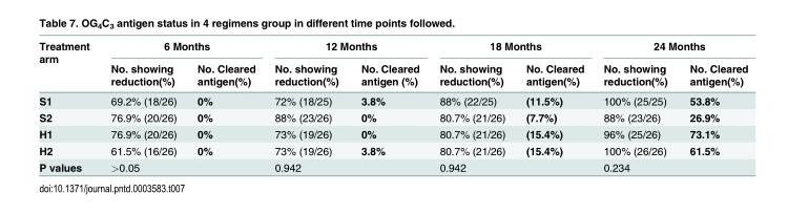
<table><thead><tr><td rowspan="2">Treatment arm</td><td colspan="2">6 Months</td><td colspan="2">12 Months</td><td colspan="2">18 Months</td><td colspan="2">24 Months</td></tr><tr><td>No. showing reduction(%)</td><td>No. Cleared antigen(%)</td><td>No. showing reduction(%)</td><td>No. Cleared antigen (%)</td><td>No. showing reduction(%)</td><td>No. Cleared antigen(%)</td><td>No. showing reduction(%)</td><td>No. Cleared antigen(%)</td></tr></thead><tbody><tr><td>S1</td><td>69.2% (18/26)</td><td>0%</td><td>72% (18/25)</td><td>3.8%</td><td>88% (22/25)</td><td>(11.5%)</td><td>100% (25/25)</td><td>53.8%</td></tr><tr><td>S2</td><td>76.9% (20/26)</td><td>0%</td><td>88% (23/26)</td><td>0%</td><td>80.7% (21/26)</td><td>(7.7%)</td><td>88% (23/26)</td><td>26.9%</td></tr><tr><td>H1</td><td>76.9% (20/26)</td><td>0%</td><td>73% (19/26)</td><td>0%</td><td>80.7% (21/26)</td><td>(15.4%)</td><td>96% (25/26)</td><td>73.1%</td></tr><tr><td>H2</td><td>61.5% (16/26)</td><td>0%</td><td>73% (19/26)</td><td>3.8%</td><td>80.7% (21/26)</td><td>(15.4%)</td><td>100% (26/26)</td><td>61.5%</td></tr><tr><td>P values</td><td>&gt;0.05</td><td></td><td>0.942</td><td></td><td>0.942</td><td></td><td>0.234</td><td></td></tr></tbody></table>